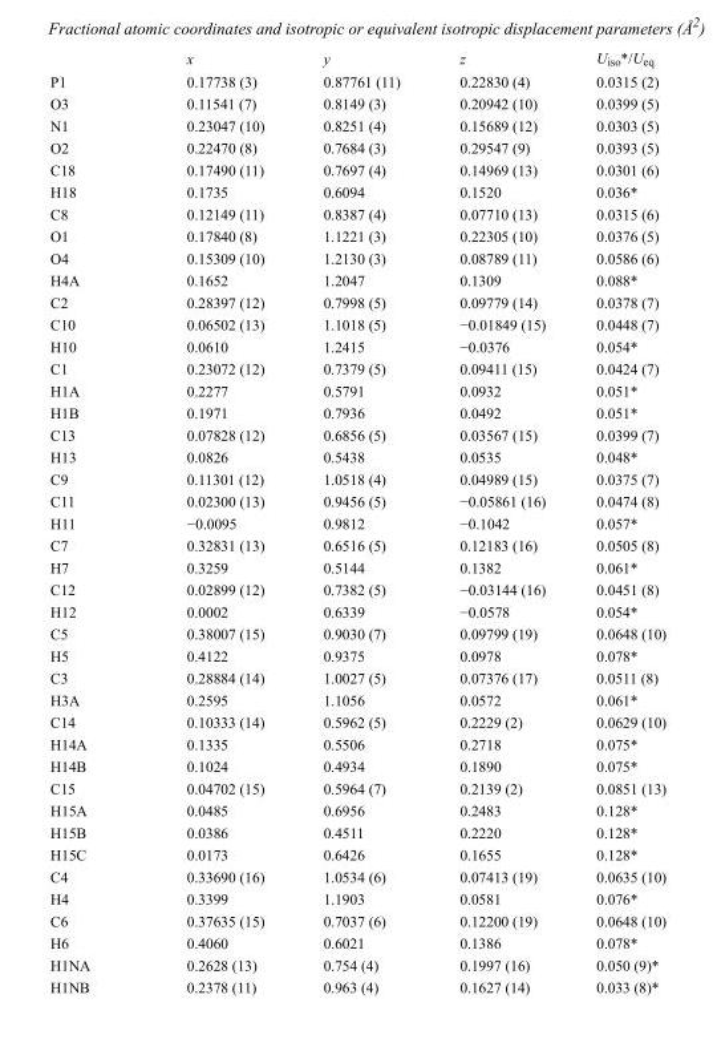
<table><thead><tr><td></td><td>x</td><td>y</td><td>z</td><td>U<sub>iso</sub>*/U<sub>eq</sub></td></tr></thead><tbody><tr><td>P1</td><td>0.17738 (3)</td><td>0.87761 (11)</td><td>0.22830 (4)</td><td>0.0315 (2)</td></tr><tr><td>O3</td><td>0.11541 (7)</td><td>0.8149 (3)</td><td>0.20942 (10)</td><td>0.0399 (5)</td></tr><tr><td>N1</td><td>0.23047 (10)</td><td>0.8251 (4)</td><td>0.15689 (12)</td><td>0.0303 (5)</td></tr><tr><td>O2</td><td>0.22470 (8)</td><td>0.7684 (3)</td><td>0.29547 (9)</td><td>0.0393 (5)</td></tr><tr><td>C18</td><td>0.17490 (11)</td><td>0.7697 (4)</td><td>0.14969 (13)</td><td>0.0301 (6)</td></tr><tr><td>H18</td><td>0.1735</td><td>0.6094</td><td>0.1520</td><td>0.036*</td></tr><tr><td>C8</td><td>0.12149 (11)</td><td>0.8387 (4)</td><td>0.07710 (13)</td><td>0.0315 (6)</td></tr><tr><td>O1</td><td>0.17840 (8)</td><td>1.1221 (3)</td><td>0.22305 (10)</td><td>0.0376 (5)</td></tr><tr><td>O4</td><td>0.15309 (10)</td><td>1.2130 (3)</td><td>0.08789 (11)</td><td>0.0586 (6)</td></tr><tr><td>H4A</td><td>0.1652</td><td>1.2047</td><td>0.1309</td><td>0.088*</td></tr><tr><td>C2</td><td>0.28397 (12)</td><td>0.7998 (5)</td><td>0.09779 (14)</td><td>0.0378 (7)</td></tr><tr><td>C10</td><td>0.06502 (13)</td><td>1.1018 (5)</td><td>−0.01849 (15)</td><td>0.0448 (7)</td></tr><tr><td>H10</td><td>0.0610</td><td>1.2415</td><td>−0.0376</td><td>0.054*</td></tr><tr><td>C1</td><td>0.23072 (12)</td><td>0.7379 (5)</td><td>0.09411 (15)</td><td>0.0424 (7)</td></tr><tr><td>H1A</td><td>0.2277</td><td>0.5791</td><td>0.0932</td><td>0.051*</td></tr><tr><td>H1B</td><td>0.1971</td><td>0.7936</td><td>0.0492</td><td>0.051*</td></tr><tr><td>C13</td><td>0.07828 (12)</td><td>0.6856 (5)</td><td>0.03567 (15)</td><td>0.0399 (7)</td></tr><tr><td>H13</td><td>0.0826</td><td>0.5438</td><td>0.0535</td><td>0.048*</td></tr><tr><td>C9</td><td>0.11301 (12)</td><td>1.0518 (4)</td><td>0.04989 (15)</td><td>0.0375 (7)</td></tr><tr><td>C11</td><td>0.02300 (13)</td><td>0.9456 (5)</td><td>−0.05861 (16)</td><td>0.0474 (8)</td></tr><tr><td>H11</td><td>−0.0095</td><td>0.9812</td><td>−0.1042</td><td>0.057*</td></tr><tr><td>C7</td><td>0.32831 (13)</td><td>0.6516 (5)</td><td>0.12183 (16)</td><td>0.0505 (8)</td></tr><tr><td>H7</td><td>0.3259</td><td>0.5144</td><td>0.1382</td><td>0.061*</td></tr><tr><td>C12</td><td>0.02899 (12)</td><td>0.7382 (5)</td><td>−0.03144 (16)</td><td>0.0451 (8)</td></tr><tr><td>H12</td><td>0.0002</td><td>0.6339</td><td>−0.0578</td><td>0.054*</td></tr><tr><td>C5</td><td>0.38007 (15)</td><td>0.9030 (7)</td><td>0.09799 (19)</td><td>0.0648 (10)</td></tr><tr><td>H5</td><td>0.4122</td><td>0.9375</td><td>0.0978</td><td>0.078*</td></tr><tr><td>C3</td><td>0.28884 (14)</td><td>1.0027 (5)</td><td>0.07376 (17)</td><td>0.0511 (8)</td></tr><tr><td>H3A</td><td>0.2595</td><td>1.1056</td><td>0.0572</td><td>0.061*</td></tr><tr><td>C14</td><td>0.10333 (14)</td><td>0.5962 (5)</td><td>0.2229 (2)</td><td>0.0629 (10)</td></tr><tr><td>H14A</td><td>0.1335</td><td>0.5506</td><td>0.2718</td><td>0.075*</td></tr><tr><td>H14B</td><td>0.1024</td><td>0.4934</td><td>0.1890</td><td>0.075*</td></tr><tr><td>C15</td><td>0.04702 (15)</td><td>0.5964 (7)</td><td>0.2139 (2)</td><td>0.0851 (13)</td></tr><tr><td>H15A</td><td>0.0485</td><td>0.6956</td><td>0.2483</td><td>0.128*</td></tr><tr><td>H15B</td><td>0.0386</td><td>0.4511</td><td>0.2220</td><td>0.128*</td></tr><tr><td>H15C</td><td>0.0173</td><td>0.6426</td><td>0.1655</td><td>0.128*</td></tr><tr><td>C4</td><td>0.33690 (16)</td><td>1.0534 (6)</td><td>0.07413 (19)</td><td>0.0635 (10)</td></tr><tr><td>H4</td><td>0.3399</td><td>1.1903</td><td>0.0581</td><td>0.076*</td></tr><tr><td>C6</td><td>0.37635 (15)</td><td>0.7037 (6)</td><td>0.12200 (19)</td><td>0.0648 (10)</td></tr><tr><td>H6</td><td>0.4060</td><td>0.6021</td><td>0.1386</td><td>0.078*</td></tr><tr><td>H1NA</td><td>0.2628 (13)</td><td>0.754 (4)</td><td>0.1997 (16)</td><td>0.050 (9)*</td></tr><tr><td>H1NB</td><td>0.2378 (11)</td><td>0.963 (4)</td><td>0.1627 (14)</td><td>0.033 (8)*</td></tr></tbody></table>